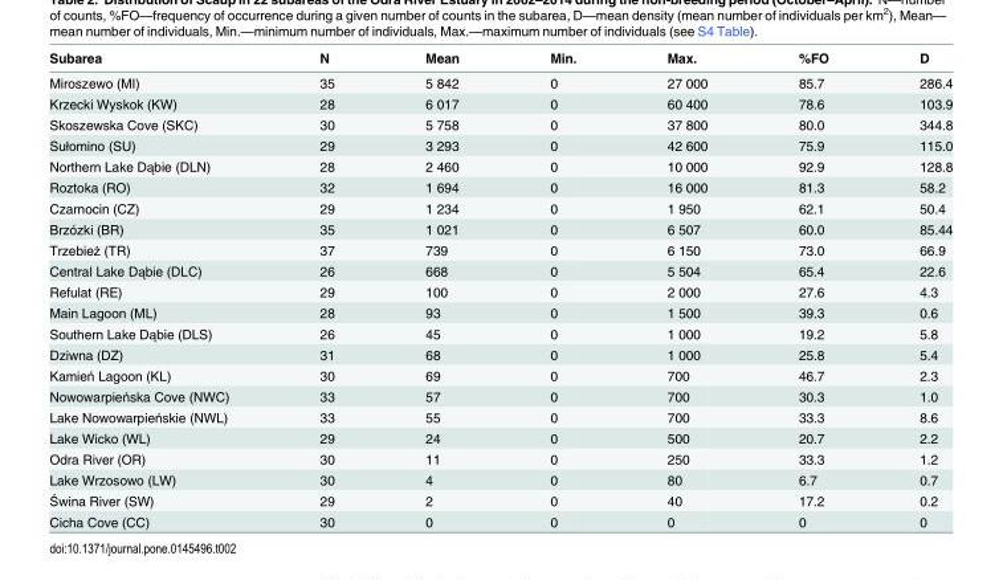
<table><thead><tr><td>Subarea</td><td>N</td><td>Mean</td><td>Min.</td><td>Max.</td><td>%FO</td><td>D</td></tr></thead><tbody><tr><td>Miroszewo (MI)</td><td>35</td><td>5 842</td><td>0</td><td>27 000</td><td>85.7</td><td>286.4</td></tr><tr><td>Krzecki Wyskok (KW)</td><td>28</td><td>6 017</td><td>0</td><td>60 400</td><td>78.6</td><td>103.9</td></tr><tr><td>Skoszewska Cove (SKC)</td><td>30</td><td>5 758</td><td>0</td><td>37 800</td><td>80.0</td><td>344.8</td></tr><tr><td>Sułomino (SU)</td><td>29</td><td>3 293</td><td>0</td><td>42 600</td><td>75.9</td><td>115.0</td></tr><tr><td>Northern Lake Dąbie (DLN)</td><td>28</td><td>2 460</td><td>0</td><td>10 000</td><td>92.9</td><td>128.8</td></tr><tr><td>Roztoka (RO)</td><td>32</td><td>1 694</td><td>0</td><td>16 000</td><td>81.3</td><td>58.2</td></tr><tr><td>Czarnocin (CZ)</td><td>29</td><td>1 234</td><td>0</td><td>1 950</td><td>62.1</td><td>50.4</td></tr><tr><td>Brzózki (BR)</td><td>35</td><td>1 021</td><td>0</td><td>6 507</td><td>60.0</td><td>85.44</td></tr><tr><td>Trzebież (TR)</td><td>37</td><td>739</td><td>0</td><td>6 150</td><td>73.0</td><td>66.9</td></tr><tr><td>Central Lake Dąbie (DLC)</td><td>26</td><td>668</td><td>0</td><td>5 504</td><td>65.4</td><td>22.6</td></tr><tr><td>Refulat (RE)</td><td>29</td><td>100</td><td>0</td><td>2 000</td><td>27.6</td><td>4.3</td></tr><tr><td>Main Lagoon (ML)</td><td>28</td><td>93</td><td>0</td><td>1 500</td><td>39.3</td><td>0.6</td></tr><tr><td>Southern Lake Dąbie (DLS)</td><td>26</td><td>45</td><td>0</td><td>1 000</td><td>19.2</td><td>5.8</td></tr><tr><td>Dziwna (DZ)</td><td>31</td><td>68</td><td>0</td><td>1 000</td><td>25.8</td><td>5.4</td></tr><tr><td>Kamień Lagoon (KL)</td><td>30</td><td>69</td><td>0</td><td>700</td><td>46.7</td><td>2.3</td></tr><tr><td>Nowowarpieńska Cove (NWC)</td><td>33</td><td>57</td><td>0</td><td>700</td><td>30.3</td><td>1.0</td></tr><tr><td>Lake Nowowarpieńskie (NWL)</td><td>33</td><td>55</td><td>0</td><td>700</td><td>33.3</td><td>8.6</td></tr><tr><td>Lake Wicko (WL)</td><td>29</td><td>24</td><td>0</td><td>500</td><td>20.7</td><td>2.2</td></tr><tr><td>Odra River (OR)</td><td>30</td><td>11</td><td>0</td><td>250</td><td>33.3</td><td>1.2</td></tr><tr><td>Lake Wrzosowo (LW)</td><td>30</td><td>4</td><td>0</td><td>80</td><td>6.7</td><td>0.7</td></tr><tr><td>Świna River (SW)</td><td>29</td><td>2</td><td>0</td><td>40</td><td>17.2</td><td>0.2</td></tr><tr><td>Cicha Cove (CC)</td><td>30</td><td>0</td><td>0</td><td>0</td><td>0</td><td>0</td></tr></tbody></table>